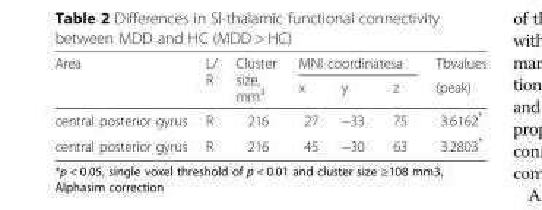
<table><thead><tr><td rowspan="2">Area</td><td rowspan="2">L/ R</td><td rowspan="2">Cluster size, mm<sup>3</sup></td><td colspan="3">MNI coordinatesa</td><td rowspan="2">Tbvalues (peak)</td></tr><tr><td>x</td><td>y</td><td>z</td></tr></thead><tbody><tr><td>central posterior gyrus</td><td>R</td><td>216</td><td>27</td><td>−33</td><td>75</td><td>3.6162*</td></tr><tr><td>central posterior gyrus</td><td>R</td><td>216</td><td>45</td><td>−30</td><td>63</td><td>3.2803*</td></tr></tbody></table>